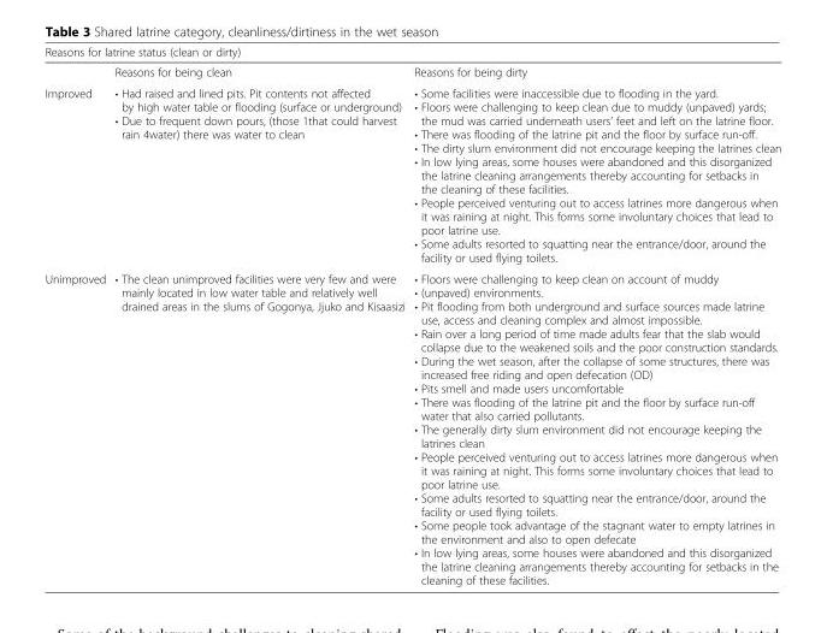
<table><thead><tr><td colspan="3">Reasons for latrine status (clean or dirty)</td></tr><tr><td></td><td>Reasons for being clean</td><td>Reasons for being dirty</td></tr></thead><tbody><tr><td>Improved</td><td>• Had raised and lined pits. Pit contents not affected by high water table or flooding (surface or underground) • Due to frequent down pours, (those 1that could harvest rain 4water) there was water to clean</td><td>• Some facilities were inaccessible due to flooding in the yard. • Floors were challenging to keep clean due to muddy (unpaved) yards; the mud was carried underneath users’ feet and left on the latrine floor. • There was flooding of the latrine pit and the floor by surface run-off. • The dirty slum environment did not encourage keeping the latrines clean • In low lying areas, some houses were abandoned and this disorganized the latrine cleaning arrangements thereby accounting for setbacks in the cleaning of these facilities. • People perceived venturing out to access latrines more dangerous when it was raining at night. This forms some involuntary choices that lead to poor latrine use. • Some adults resorted to squatting near the entrance/door, around the facility or used flying toilets.</td></tr><tr><td>Unimproved</td><td>• The clean unimproved facilities were very few and were mainly located in low water table and relatively well drained areas in the slums of Gogonya, Jjuko and Kisaasizi</td><td>• Floors were challenging to keep clean on account of muddy • (unpaved) environments. • Pit flooding from both underground and surface sources made latrine use, access and cleaning complex and almost impossible. • Rain over a long period of time made adults fear that the slab would collapse due to the weakened soils and the poor construction standards. • During the wet season, after the collapse of some structures, there was increased free riding and open defecation (OD) • Pits smell and made users uncomfortable • There was flooding of the latrine pit and the floor by surface run-off water that also carried pollutants. • The generally dirty slum environment did not encourage keeping the latrines clean • People perceived venturing out to access latrines more dangerous when it was raining at night. This forms some involuntary choices that lead to poor latrine use. • Some adults resorted to squatting near the entrance/door, around the facility or used flying toilets. • Some people took advantage of the stagnant water to empty latrines in the environment and also to open defecate • In low lying areas, some houses were abandoned and this disorganized the latrine cleaning arrangements thereby accounting for setbacks in the cleaning of these facilities.</td></tr></tbody></table>